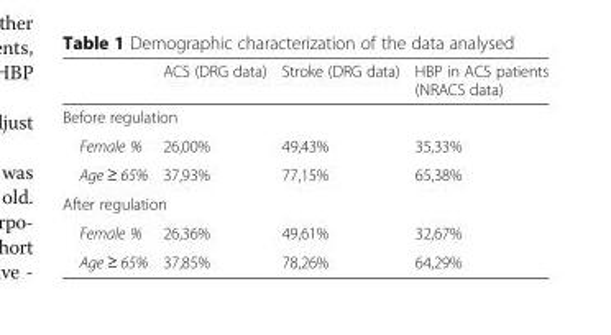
<table><thead><tr><td></td><td>ACS (DRG data)</td><td>Stroke (DRG data)</td><td>HBP in ACS patients (NRACS data)</td></tr></thead><tbody><tr><td colspan="4">Before regulation</td></tr><tr><td>Female %</td><td>26,00%</td><td>49,43%</td><td>35,33%</td></tr><tr><td>Age ≥ 65%</td><td>37,93%</td><td>77,15%</td><td>65,38%</td></tr><tr><td colspan="4">After regulation</td></tr><tr><td>Female %</td><td>26,36%</td><td>49,61%</td><td>32,67%</td></tr><tr><td>Age ≥ 65%</td><td>37,85%</td><td>78,26%</td><td>64,29%</td></tr></tbody></table>